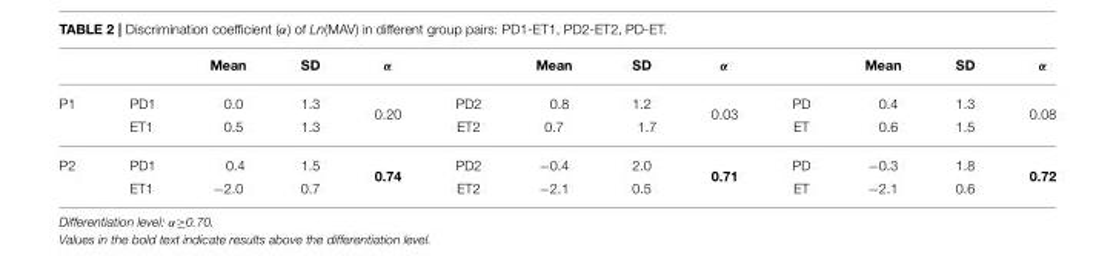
<table><thead><tr><td></td><td></td><td>Mean</td><td>SD</td><td>α</td><td></td><td>Mean</td><td>SD</td><td>α</td><td></td><td>Mean</td><td>SD</td><td>α</td></tr></thead><tbody><tr><td rowspan="2">P1</td><td>PD1</td><td>0.0</td><td>1.3</td><td rowspan="2">0.20</td><td>PD2</td><td>0.8</td><td>1.2</td><td rowspan="2">0.03</td><td>PD</td><td>0.4</td><td>1.3</td><td rowspan="2">0.08</td></tr><tr><td>ET1</td><td>0.5</td><td>1.3</td><td>ET2</td><td>0.7</td><td>1.7</td><td>ET</td><td>0.6</td><td>1.5</td></tr><tr><td rowspan="2">P2</td><td>PD1</td><td>0.4</td><td>1.5</td><td rowspan="2">0.74</td><td>PD2</td><td>−0.4</td><td>2.0</td><td rowspan="2">0.71</td><td>PD</td><td>−0.3</td><td>1.8</td><td rowspan="2">0.72</td></tr><tr><td>ET1</td><td>−2.0</td><td>0.7</td><td>ET2</td><td>−2.1</td><td>0.5</td><td>ET</td><td>−2.1</td><td>0.6</td></tr></tbody></table>